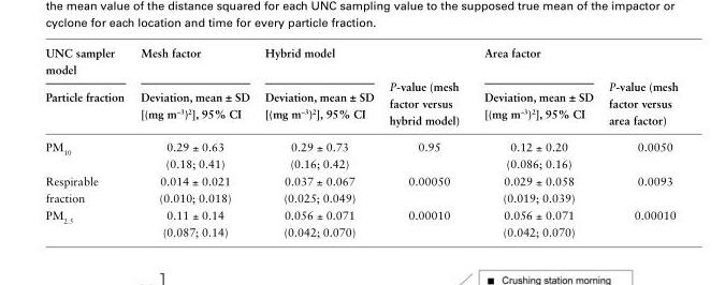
<table><thead><tr><td rowspan="2">UNC sampler model Particle fraction</td><td rowspan="2">Mesh factor Deviation, mean ± SD [(mg m<sup>−3</sup>)<sup>2</sup>], 95% CI</td><td rowspan="2">Hybrid model Deviation, mean ± SD [(mg m<sup>−3</sup>)<sup>2</sup>], 95% CI</td><td rowspan="2">P-value (mesh factor versus hybrid model)</td><td rowspan="2">Area factor Deviation, mean ± SD [(mg m<sup>−3</sup>)<sup>2</sup>], 95% CI</td><td rowspan="2">P-value (mesh factor versus area factor)</td></tr><tr></tr></thead><tbody><tr><td>PM<sub>10</sub></td><td>0.29 ± 0.63 (0.18; 0.41)</td><td>0.29 ± 0.73 (0.16; 0.42)</td><td>0.95</td><td>0.12 ± 0.20 (0.086; 0.16)</td><td>0.0050</td></tr><tr><td>Respirable fraction</td><td>0.014 ± 0.021 (0.010; 0.018)</td><td>0.037 ± 0.067 (0.025; 0.049)</td><td>0.00050</td><td>0.029 ± 0.058 (0.019; 0.039)</td><td>0.0093</td></tr><tr><td>PM<sub>2.5</sub></td><td>0.11 ± 0.14 (0.087; 0.14)</td><td>0.056 ± 0.071 (0.042; 0.070)</td><td>0.00010</td><td>0.056 ± 0.071 (0.042; 0.070)</td><td>0.00010</td></tr></tbody></table>